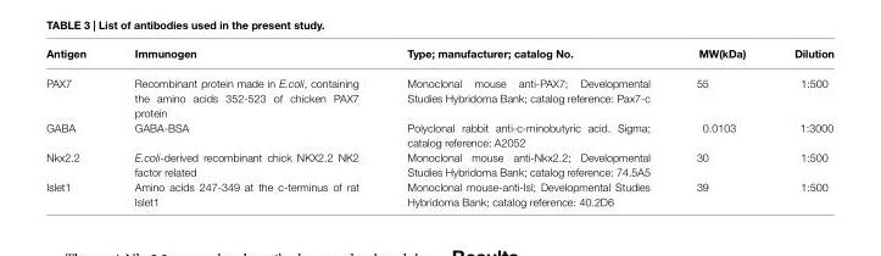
<table><thead><tr><td>Antigen</td><td>Immunogen</td><td>Type; manufacturer; catalog No.</td><td>MW(kDa)</td><td>Dilution</td></tr></thead><tbody><tr><td>PAX7</td><td>Recombinant protein made in E.coli, containing the amino acids 352-523 of chicken PAX7 protein</td><td>Monoclonal mouse anti-PAX7; Developmental Studies Hybridoma Bank; catalog reference: Pax7-c</td><td>55</td><td>1:500</td></tr><tr><td>GABA</td><td>GABA-BSA</td><td>Polyclonal rabbit anti-c-minobutyric acid. Sigma; catalog reference: A2052</td><td>0.0103</td><td>1:3000</td></tr><tr><td>Nkx2.2</td><td>E.coli-derived recombinant chick NKX2.2 NK2 factor related</td><td>Monoclonal mouse anti-Nkx2.2; Developmental Studies Hybridoma Bank; catalog reference: 74.5A5</td><td>30</td><td>1:500</td></tr><tr><td>Islet1</td><td>Amino acids 247-349 at the c-terminus of rat Islet1</td><td>Monoclonal mouse-anti-Isl; Developmental Studies Hybridoma Bank; catalog reference: 40.2D6</td><td>39</td><td>1:500</td></tr></tbody></table>